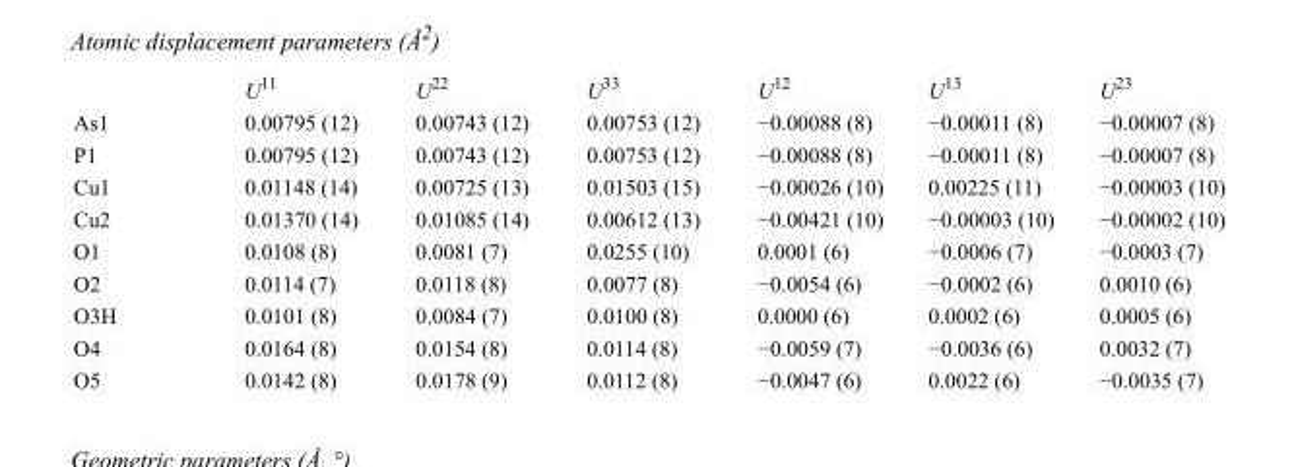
<table><thead><tr><td></td><td>U<sup>11</sup></td><td>U<sup>22</sup></td><td>U<sup>33</sup></td><td>U<sup>12</sup></td><td>U<sup>13</sup></td><td>U<sup>23</sup></td></tr></thead><tbody><tr><td>As1</td><td>0.00795 (12)</td><td>0.00743 (12)</td><td>0.00753 (12)</td><td>−0.00088 (8)</td><td>−0.00011 (8)</td><td>−0.00007 (8)</td></tr><tr><td>P1</td><td>0.00795 (12)</td><td>0.00743 (12)</td><td>0.00753 (12)</td><td>−0.00088 (8)</td><td>−0.00011 (8)</td><td>−0.00007 (8)</td></tr><tr><td>Cu1</td><td>0.01148 (14)</td><td>0.00725 (13)</td><td>0.01503 (15)</td><td>−0.00026 (10)</td><td>0.00225 (11)</td><td>−0.00003 (10)</td></tr><tr><td>Cu2</td><td>0.01370 (14)</td><td>0.01085 (14)</td><td>0.00612 (13)</td><td>−0.00421 (10)</td><td>−0.00003 (10)</td><td>−0.00002 (10)</td></tr><tr><td>O1</td><td>0.0108 (8)</td><td>0.0081 (7)</td><td>0.0255 (10)</td><td>0.0001 (6)</td><td>−0.0006 (7)</td><td>−0.0003 (7)</td></tr><tr><td>O2</td><td>0.0114 (7)</td><td>0.0118 (8)</td><td>0.0077 (8)</td><td>−0.0054 (6)</td><td>−0.0002 (6)</td><td>0.0010 (6)</td></tr><tr><td>O3H</td><td>0.0101 (8)</td><td>0.0084 (7)</td><td>0.0100 (8)</td><td>0.0000 (6)</td><td>0.0002 (6)</td><td>0.0005 (6)</td></tr><tr><td>O4</td><td>0.0164 (8)</td><td>0.0154 (8)</td><td>0.0114 (8)</td><td>−0.0059 (7)</td><td>−0.0036 (6)</td><td>0.0032 (7)</td></tr><tr><td>O5</td><td>0.0142 (8)</td><td>0.0178 (9)</td><td>0.0112 (8)</td><td>−0.0047 (6)</td><td>0.0022 (6)</td><td>−0.0035 (7)</td></tr></tbody></table>